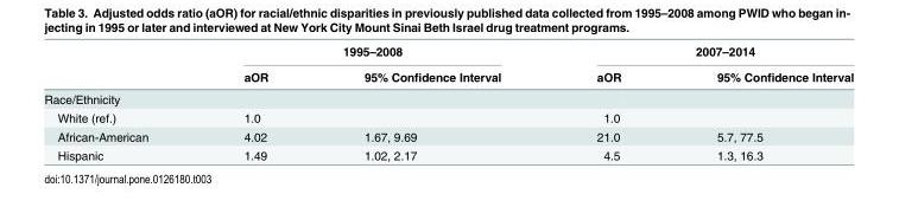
<table><thead><tr><td rowspan="2"></td><td colspan="2">1995–2008</td><td colspan="2">2007–2014</td></tr><tr><td>aOR</td><td>95% Confidence Interval</td><td>aOR</td><td>95% Confidence Interval</td></tr></thead><tbody><tr><td colspan="5">Race/Ethnicity</td></tr><tr><td>White (ref.)</td><td>1.0</td><td></td><td>1.0</td><td></td></tr><tr><td>African-American</td><td>4.02</td><td>1.67, 9.69</td><td>21.0</td><td>5.7, 77.5</td></tr><tr><td>Hispanic</td><td>1.49</td><td>1.02, 2.17</td><td>4.5</td><td>1.3, 16.3</td></tr></tbody></table>